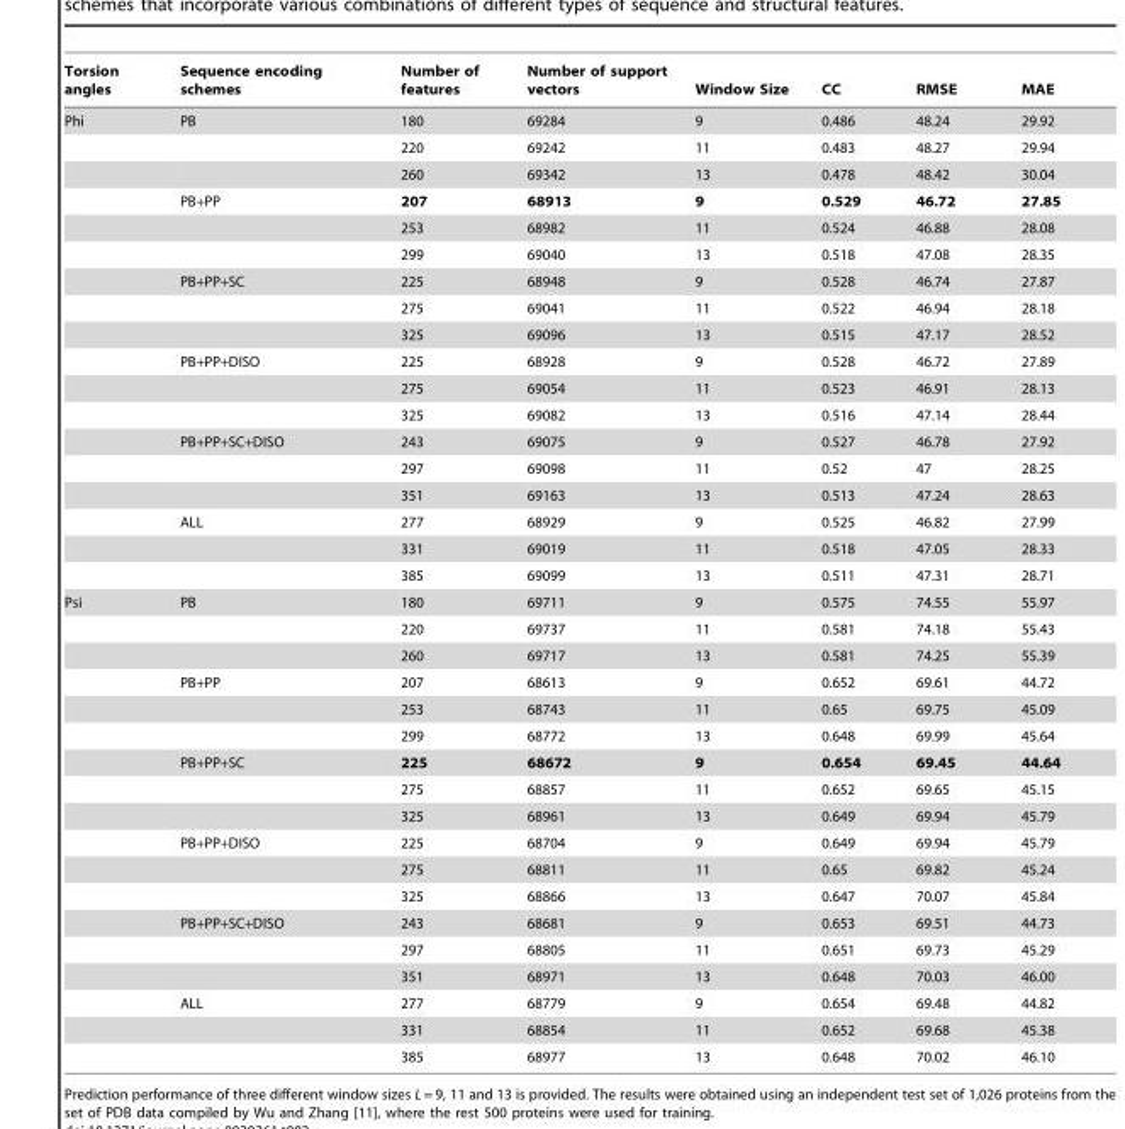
<table><thead><tr><td>Torsion angles</td><td>Sequence encoding schemes</td><td>Number of features</td><td>Number of support vectors</td><td>Window Size</td><td>CC</td><td>RMSE</td><td>MAE</td></tr></thead><tbody><tr><td rowspan="18">Phi</td><td>PB</td><td>180</td><td>69284</td><td>9</td><td>0.486</td><td>48.24</td><td>29.92</td></tr><tr><td></td><td>220</td><td>69242</td><td>11</td><td>0.483</td><td>48.27</td><td>29.94</td></tr><tr><td></td><td>260</td><td>69342</td><td>13</td><td>0.478</td><td>48.42</td><td>30.04</td></tr><tr><td>PB+PP</td><td>207</td><td>68913</td><td>9</td><td>0.529</td><td>46.72</td><td>27.85</td></tr><tr><td></td><td>253</td><td>68982</td><td>11</td><td>0.524</td><td>46.88</td><td>28.08</td></tr><tr><td></td><td>299</td><td>69040</td><td>13</td><td>0.518</td><td>47.08</td><td>28.35</td></tr><tr><td>PB+PP+SC</td><td>225</td><td>68948</td><td>9</td><td>0.528</td><td>46.74</td><td>27.87</td></tr><tr><td></td><td>275</td><td>69041</td><td>11</td><td>0.522</td><td>46.94</td><td>28.18</td></tr><tr><td></td><td>325</td><td>69096</td><td>13</td><td>0.515</td><td>47.17</td><td>28.52</td></tr><tr><td>PB+PP+DISO</td><td>225</td><td>68928</td><td>9</td><td>0.528</td><td>46.72</td><td>27.89</td></tr><tr><td></td><td>275</td><td>69054</td><td>11</td><td>0.523</td><td>46.91</td><td>28.13</td></tr><tr><td></td><td>325</td><td>69082</td><td>13</td><td>0.516</td><td>47.14</td><td>28.44</td></tr><tr><td>PB+PP+SC+DISO</td><td>243</td><td>69075</td><td>9</td><td>0.527</td><td>46.78</td><td>27.92</td></tr><tr><td></td><td>297</td><td>69098</td><td>11</td><td>0.52</td><td>47</td><td>28.25</td></tr><tr><td></td><td>351</td><td>69163</td><td>13</td><td>0.513</td><td>47.24</td><td>28.63</td></tr><tr><td>ALL</td><td>277</td><td>68929</td><td>9</td><td>0.525</td><td>46.82</td><td>27.99</td></tr><tr><td></td><td>331</td><td>69019</td><td>11</td><td>0.518</td><td>47.05</td><td>28.33</td></tr><tr><td></td><td>385</td><td>69099</td><td>13</td><td>0.511</td><td>47.31</td><td>28.71</td></tr><tr><td rowspan="18">Psi</td><td>PB</td><td>180</td><td>69711</td><td>9</td><td>0.575</td><td>74.55</td><td>55.97</td></tr><tr><td></td><td>220</td><td>69737</td><td>11</td><td>0.581</td><td>74.18</td><td>55.43</td></tr><tr><td></td><td>260</td><td>69717</td><td>13</td><td>0.581</td><td>74.25</td><td>55.39</td></tr><tr><td>PB+PP</td><td>207</td><td>68613</td><td>9</td><td>0.652</td><td>69.61</td><td>44.72</td></tr><tr><td></td><td>253</td><td>68743</td><td>11</td><td>0.65</td><td>69.75</td><td>45.09</td></tr><tr><td></td><td>299</td><td>68772</td><td>13</td><td>0.648</td><td>69.99</td><td>45.64</td></tr><tr><td>PB+PP+SC</td><td>225</td><td>68672</td><td>9</td><td>0.654</td><td>69.45</td><td>44.64</td></tr><tr><td></td><td>275</td><td>68857</td><td>11</td><td>0.652</td><td>69.65</td><td>45.15</td></tr><tr><td></td><td>325</td><td>68961</td><td>13</td><td>0.649</td><td>69.94</td><td>45.79</td></tr><tr><td>PB+PP+DISO</td><td>225</td><td>68704</td><td>9</td><td>0.649</td><td>69.94</td><td>45.79</td></tr><tr><td></td><td>275</td><td>68811</td><td>11</td><td>0.65</td><td>69.82</td><td>45.24</td></tr><tr><td></td><td>325</td><td>68866</td><td>13</td><td>0.647</td><td>70.07</td><td>45.84</td></tr><tr><td>PB+PP+SC+DISO</td><td>243</td><td>68681</td><td>9</td><td>0.653</td><td>69.51</td><td>44.73</td></tr><tr><td></td><td>297</td><td>68805</td><td>11</td><td>0.651</td><td>69.73</td><td>45.29</td></tr><tr><td></td><td>351</td><td>68971</td><td>13</td><td>0.648</td><td>70.03</td><td>46.00</td></tr><tr><td>ALL</td><td>277</td><td>68779</td><td>9</td><td>0.654</td><td>69.48</td><td>44.82</td></tr><tr><td></td><td>331</td><td>68854</td><td>11</td><td>0.652</td><td>69.68</td><td>45.38</td></tr><tr><td></td><td>385</td><td>68977</td><td>13</td><td>0.648</td><td>70.02</td><td>46.10</td></tr></tbody></table>